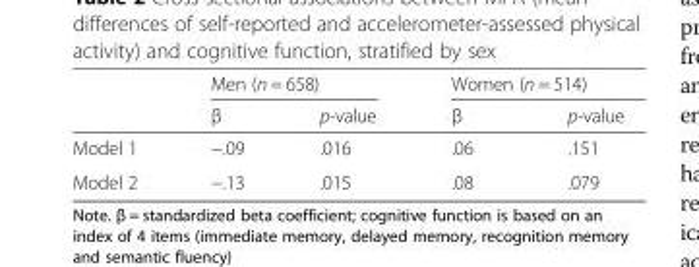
<table><thead><tr><td rowspan="2"></td><td colspan="2">Men (n = 658)</td><td colspan="2">Women (n = 514)</td></tr><tr><td>β</td><td>p-value</td><td>β</td><td>p-value</td></tr></thead><tbody><tr><td>Model 1</td><td>−.09</td><td>.016</td><td>.06</td><td>.151</td></tr><tr><td>Model 2</td><td>−.13</td><td>.015</td><td>.08</td><td>.079</td></tr></tbody></table>